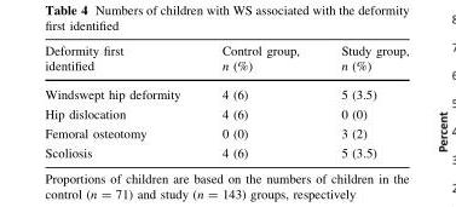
<table><thead><tr><td>Deformity first identified</td><td>Control group, n (%)</td><td>Study group, n (%)</td></tr></thead><tbody><tr><td>Windswept hip deformity</td><td>4 (6)</td><td>5 (3.5)</td></tr><tr><td>Hip dislocation</td><td>4 (6)</td><td>0 (0)</td></tr><tr><td>Femoral osteotomy</td><td>0 (0)</td><td>3 (2)</td></tr><tr><td>Scoliosis</td><td>4 (6)</td><td>5 (3.5)</td></tr></tbody></table>